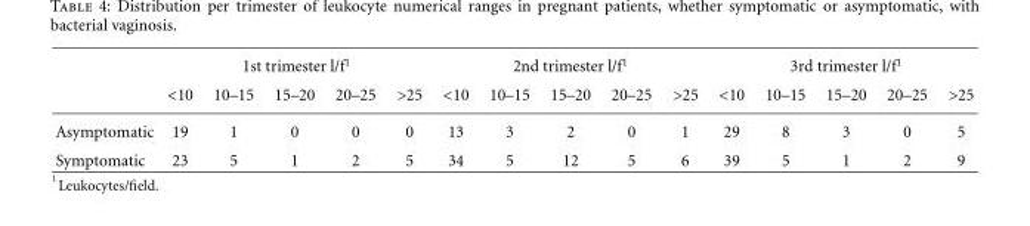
<table><thead><tr><td rowspan="2"></td><td colspan="5">1st trimester l/f<sup>1</sup></td><td colspan="5">2nd trimester l/f<sup>1</sup></td><td colspan="5">3rd trimester l/f<sup>1</sup></td></tr><tr><td>&lt;10</td><td>10–15</td><td>15–20</td><td>20–25</td><td>&gt;25</td><td>&lt;10</td><td>10–15</td><td>15–20</td><td>20–25</td><td>&gt;25</td><td>&lt;10</td><td>10–15</td><td>15–20</td><td>20–25</td><td>&gt;25</td></tr></thead><tbody><tr><td>Asymptomatic</td><td>19</td><td>1</td><td>0</td><td>0</td><td>0</td><td>13</td><td>3</td><td>2</td><td>0</td><td>1</td><td>29</td><td>8</td><td>3</td><td>0</td><td>5</td></tr><tr><td>Symptomatic</td><td>23</td><td>5</td><td>1</td><td>2</td><td>5</td><td>34</td><td>5</td><td>12</td><td>5</td><td>6</td><td>39</td><td>5</td><td>1</td><td>2</td><td>9</td></tr></tbody></table>